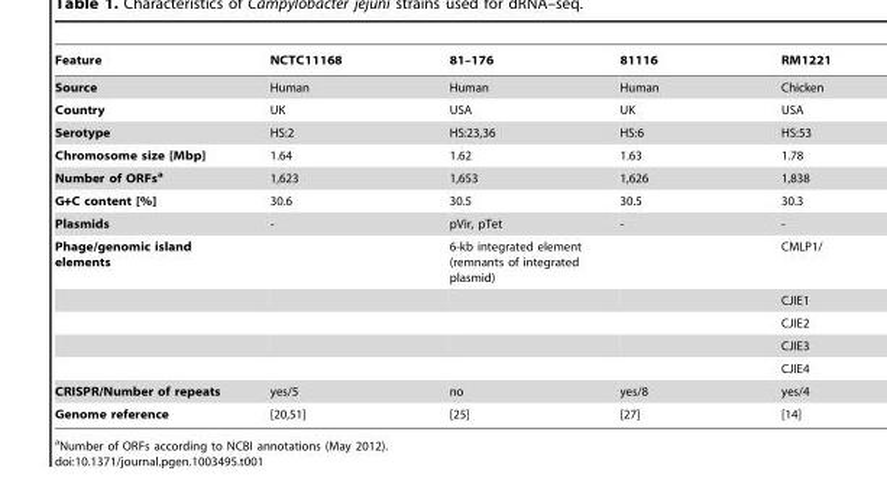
<table><thead><tr><td>Feature</td><td>NCTC11168</td><td>81–176</td><td>81116</td><td>RM1221</td></tr></thead><tbody><tr><td>Source</td><td>Human</td><td>Human</td><td>Human</td><td>Chicken</td></tr><tr><td>Country</td><td>UK</td><td>USA</td><td>UK</td><td>USA</td></tr><tr><td>Serotype</td><td>HS:2</td><td>HS:23,36</td><td>HS:6</td><td>HS:53</td></tr><tr><td>Chromosome size [Mbp]</td><td>1.64</td><td>1.62</td><td>1.63</td><td>1.78</td></tr><tr><td>Number of ORFsa</td><td>1,623</td><td>1,653</td><td>1,626</td><td>1,838</td></tr><tr><td>G+C content [%]</td><td>30.6</td><td>30.5</td><td>30.5</td><td>30.3</td></tr><tr><td>Plasmids</td><td>-</td><td>pVir, pTet</td><td>-</td><td>-</td></tr><tr><td rowspan="5">Phage/genomic island elements</td><td></td><td>6-kb integrated element (remnants of integrated plasmid)</td><td></td><td>CMLP1/</td></tr><tr><td></td><td></td><td></td><td>CJIE1</td></tr><tr><td></td><td></td><td></td><td>CJIE2</td></tr><tr><td></td><td></td><td></td><td>CJIE3</td></tr><tr><td></td><td></td><td></td><td>CJIE4</td></tr><tr><td>CRISPR/Number of repeats</td><td>yes/5</td><td>no</td><td>yes/8</td><td>yes/4</td></tr><tr><td>Genome reference</td><td>[20,51]</td><td>[25]</td><td>[27]</td><td>[14]</td></tr></tbody></table>